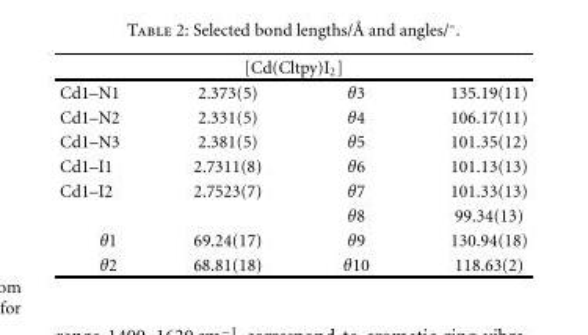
<table><thead><tr><td colspan="4">[Cd(Cltpy)I<sub>2</sub>]</td></tr><tr><td>Cd1–N1</td><td>2.373(5)</td><td>θ3</td><td>135.19(11)</td></tr></thead><tbody><tr><td>Cd1–N2</td><td>2.331(5)</td><td>θ4</td><td>106.17(11)</td></tr><tr><td>Cd1–N3</td><td>2.381(5)</td><td>θ5</td><td>101.35(12)</td></tr><tr><td>Cd1–I1</td><td>2.7311(8)</td><td>θ6</td><td>101.13(13)</td></tr><tr><td rowspan="2">Cd1–I2</td><td>2.7523(7)</td><td>θ7</td><td>101.33(13)</td></tr><tr><td></td><td>θ8</td><td>99.34(13)</td></tr><tr><td>θ1</td><td>69.24(17)</td><td>θ9</td><td>130.94(18)</td></tr><tr><td>θ2</td><td>68.81(18)</td><td>θ10</td><td>118.63(2)</td></tr></tbody></table>